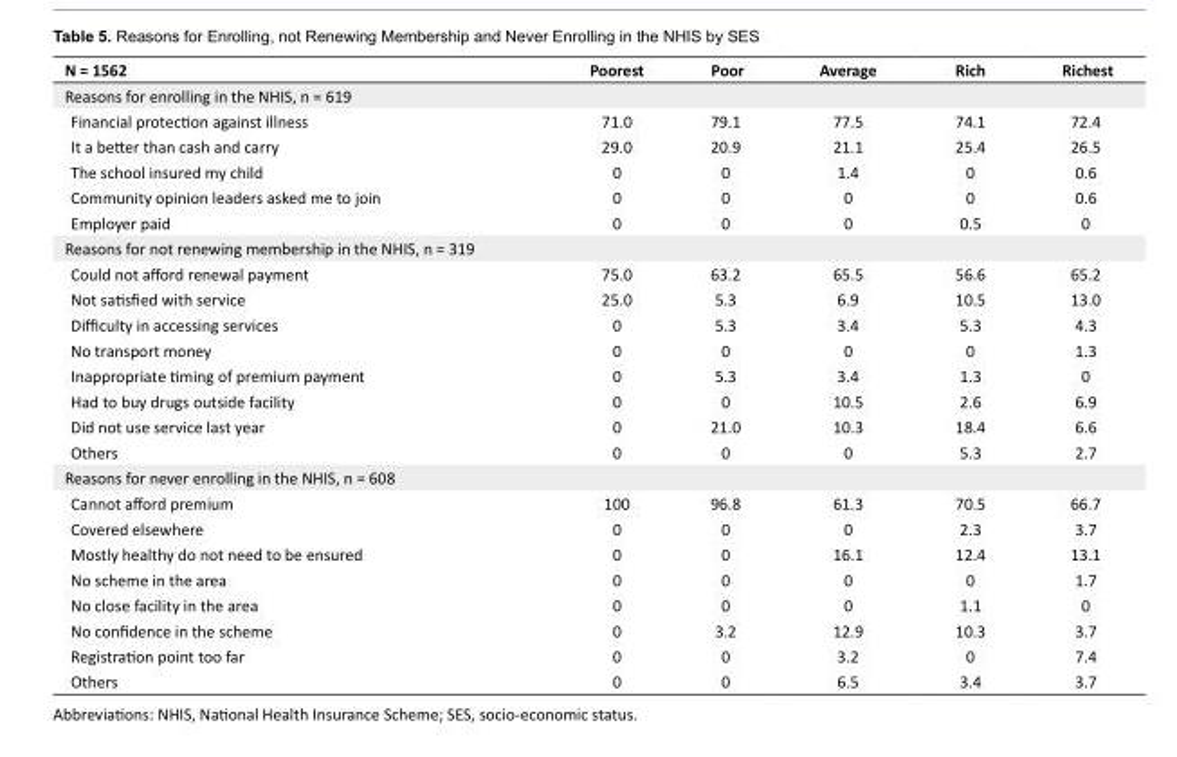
<table><tbody><tr><td>N = 1562</td><td>Poorest</td><td>Poor</td><td>Average</td><td>Rich</td><td>Richest</td></tr><tr><td colspan="6">Reasons for enrolling in the NHIS, n = 619</td></tr><tr><td>Financial protection against illness</td><td>71.0</td><td>79.1</td><td>77.5</td><td>74.1</td><td>72.4</td></tr><tr><td>It a better than cash and carry</td><td>29.0</td><td>20.9</td><td>21.1</td><td>25.4</td><td>26.5</td></tr><tr><td>The school insured my child</td><td>0</td><td>0</td><td>1.4</td><td>0</td><td>0.6</td></tr><tr><td>Community opinion leaders asked me to join</td><td>0</td><td>0</td><td>0</td><td>0</td><td>0.6</td></tr><tr><td>Employer paid</td><td>0</td><td>0</td><td>0</td><td>0.5</td><td>0</td></tr><tr><td colspan="6">Reasons for not renewing membership in the NHIS, n = 319</td></tr><tr><td>Could not afford renewal payment</td><td>75.0</td><td>63.2</td><td>65.5</td><td>56.6</td><td>65.2</td></tr><tr><td>Not satisfied with service</td><td>25.0</td><td>5.3</td><td>6.9</td><td>10.5</td><td>13.0</td></tr><tr><td>Difficulty in accessing services</td><td>0</td><td>5.3</td><td>3.4</td><td>5.3</td><td>4.3</td></tr><tr><td>No transport money</td><td>0</td><td>0</td><td>0</td><td>0</td><td>1.3</td></tr><tr><td>Inappropriate timing of premium payment</td><td>0</td><td>5.3</td><td>3.4</td><td>1.3</td><td>0</td></tr><tr><td>Had to buy drugs outside facility</td><td>0</td><td>0</td><td>10.5</td><td>2.6</td><td>6.9</td></tr><tr><td>Did not use service last year</td><td>0</td><td>21.0</td><td>10.3</td><td>18.4</td><td>6.6</td></tr><tr><td>Others</td><td>0</td><td>0</td><td>0</td><td>5.3</td><td>2.7</td></tr><tr><td colspan="6">Reasons for never enrolling in the NHIS, n = 608</td></tr><tr><td>Cannot afford premium</td><td>100</td><td>96.8</td><td>61.3</td><td>70.5</td><td>66.7</td></tr><tr><td>Covered elsewhere</td><td>0</td><td>0</td><td>0</td><td>2.3</td><td>3.7</td></tr><tr><td>Mostly healthy do not need to be ensured</td><td>0</td><td>0</td><td>16.1</td><td>12.4</td><td>13.1</td></tr><tr><td>No scheme in the area</td><td>0</td><td>0</td><td>0</td><td>0</td><td>1.7</td></tr><tr><td>No close facility in the area</td><td>0</td><td>0</td><td>0</td><td>1.1</td><td>0</td></tr><tr><td>No confidence in the scheme</td><td>0</td><td>3.2</td><td>12.9</td><td>10.3</td><td>3.7</td></tr><tr><td>Registration point too far</td><td>0</td><td>0</td><td>3.2</td><td>0</td><td>7.4</td></tr><tr><td>Others</td><td>0</td><td>0</td><td>6.5</td><td>3.4</td><td>3.7</td></tr></tbody></table>